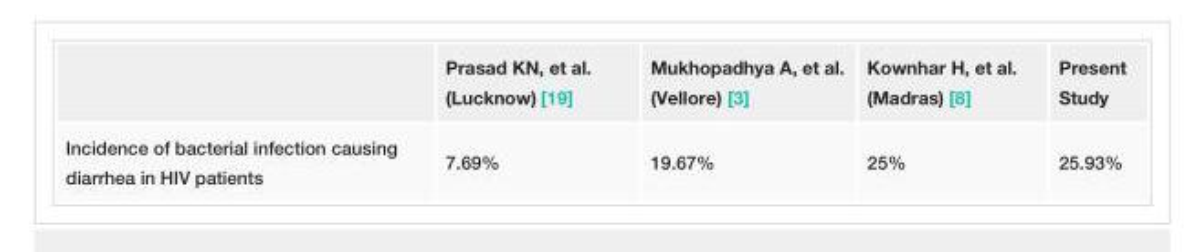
<table><thead><tr><td></td><td>Prasad KN, et al. (Lucknow) [19]</td><td>Mukhopadhya A, et al. (Vellore) [3]</td><td>Kownhar H, et al. (Madras) [8]</td><td>Present Study</td></tr></thead><tbody><tr><td>Incidence of bacterial infection causing diarrhea in HIV patients</td><td>7.69%</td><td>19.67%</td><td>25%</td><td>25.93%</td></tr></tbody></table>